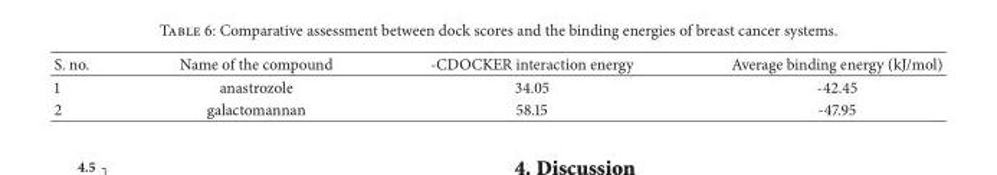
<table><thead><tr><td>S. no.</td><td>Name of the compound</td><td>-CDOCKER interaction energy</td><td>Average binding energy (kJ/mol)</td></tr></thead><tbody><tr><td>1</td><td>anastrozole</td><td>34.05</td><td>-42.45</td></tr><tr><td>2</td><td>galactomannan</td><td>58.15</td><td>-47.95</td></tr></tbody></table>